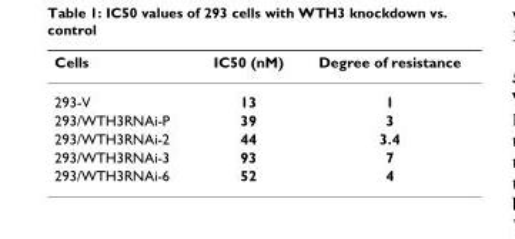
<table><thead><tr><td>Cells</td><td>IC50 (nM)</td><td>Degree of resistance</td></tr></thead><tbody><tr><td>293-V</td><td>13</td><td>1</td></tr><tr><td>293/WTH3RNAi-P</td><td>39</td><td>3</td></tr><tr><td>293/WTH3RNAi-2</td><td>44</td><td>3.4</td></tr><tr><td>293/WTH3RNAi-3</td><td>93</td><td>7</td></tr><tr><td>293/WTH3RNAi-6</td><td>52</td><td>4</td></tr></tbody></table>